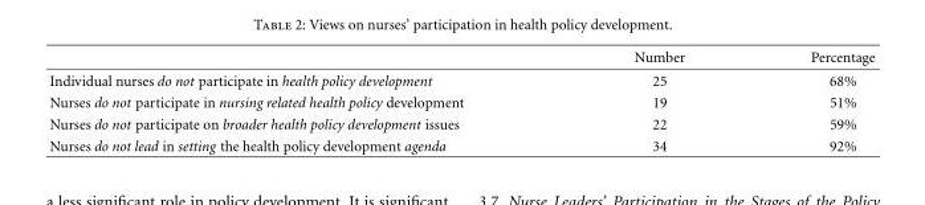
<table><thead><tr><td></td><td>Number</td><td>Percentage</td></tr></thead><tbody><tr><td>Individual nurses do not participate in health policy development</td><td>25</td><td>68%</td></tr><tr><td>Nurses do not participate in nursing related health policy development</td><td>19</td><td>51%</td></tr><tr><td>Nurses do not participate on broader health policy development issues</td><td>22</td><td>59%</td></tr><tr><td>Nurses do not lead in setting the health policy development agenda</td><td>34</td><td>92%</td></tr></tbody></table>